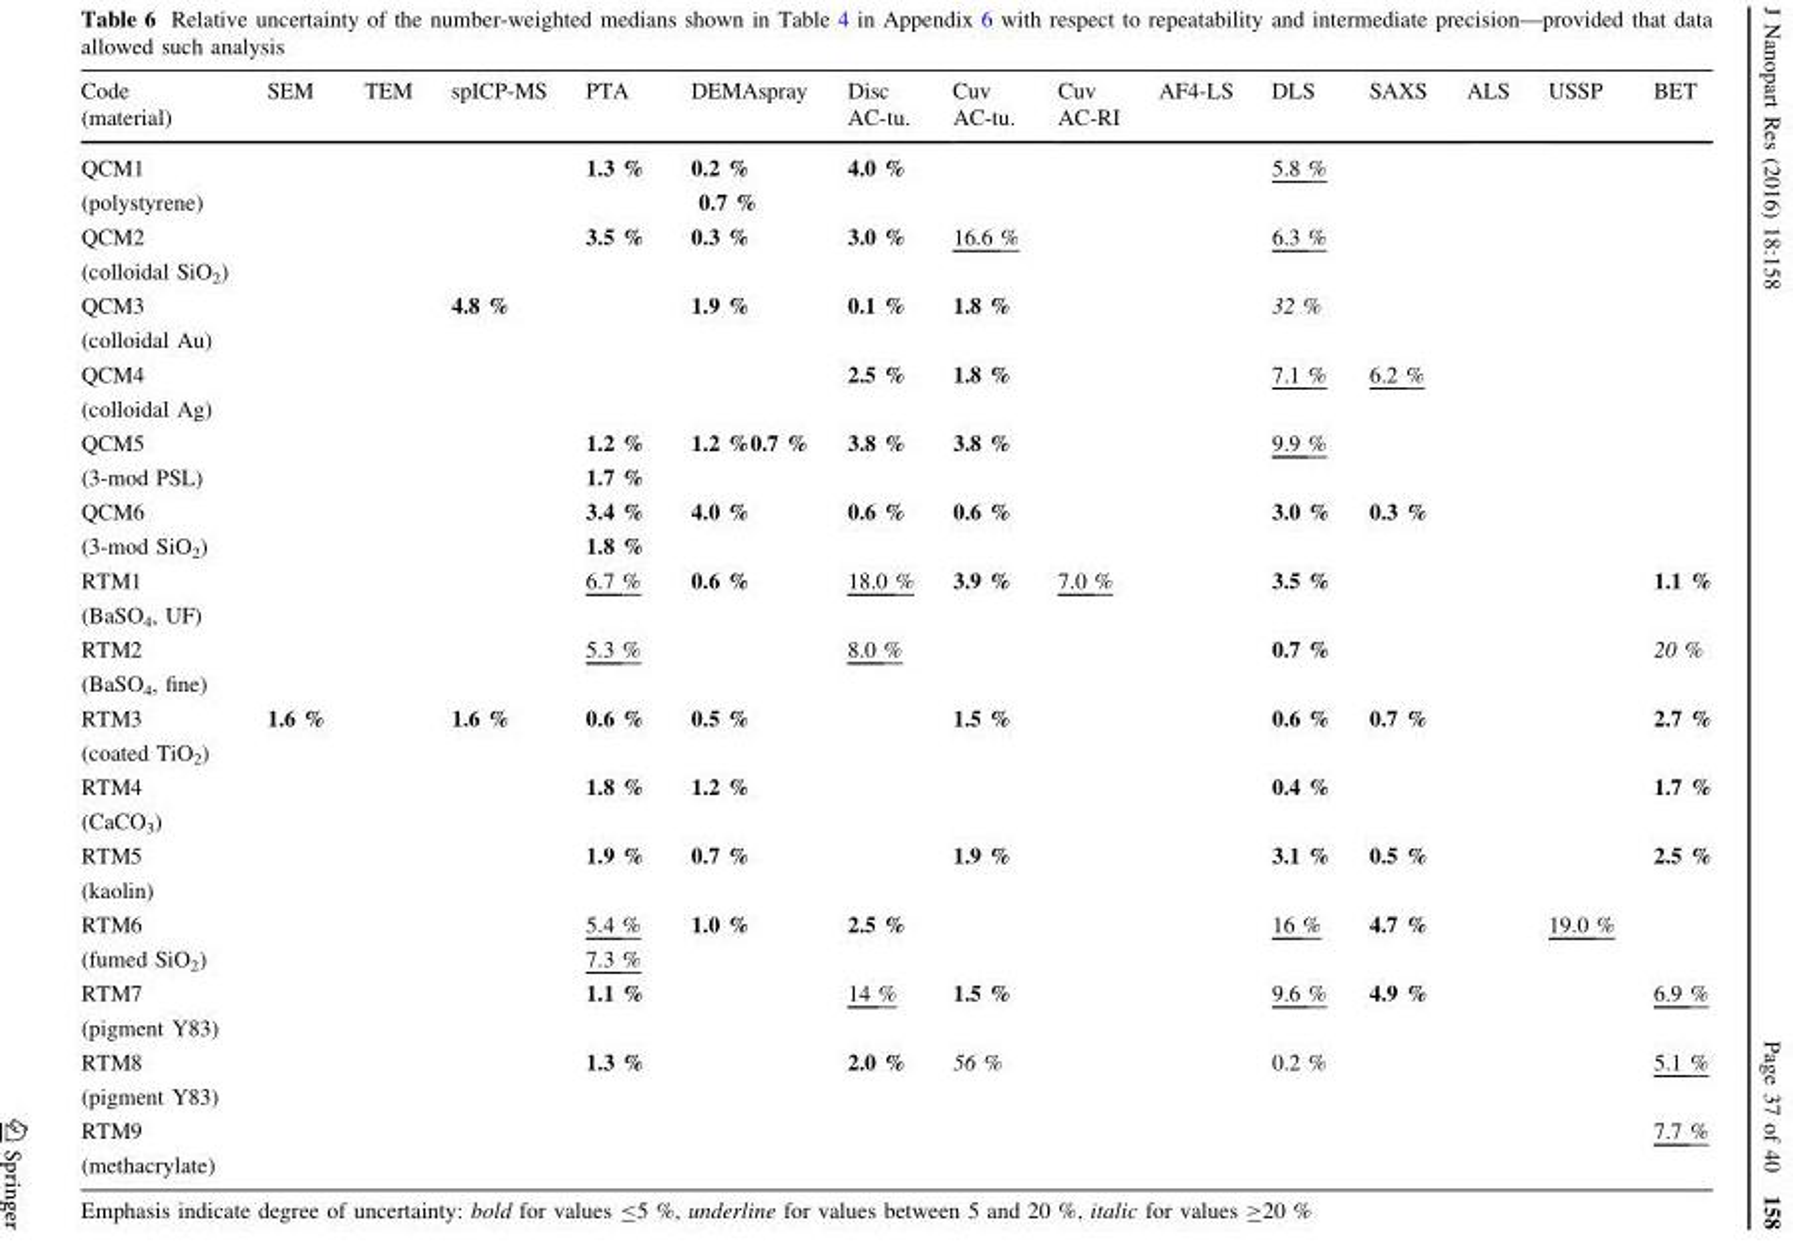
<table><thead><tr><td>Code (material)</td><td>SEM</td><td>TEM</td><td>spICP-MS</td><td>PTA</td><td>DEMAspray</td><td>Disc AC-tu.</td><td>Cuv AC-tu.</td><td>Cuv AC-RI</td><td>AF4-LS</td><td>DLS</td><td>SAXS</td><td>ALS</td><td>USSP</td><td>BET</td></tr></thead><tbody><tr><td>QCM1 (polystyrene)</td><td></td><td></td><td></td><td>1.3 %</td><td>0.2 % 0.7 %</td><td>4.0 %</td><td></td><td></td><td></td><td>5.8 %</td><td></td><td></td><td></td><td></td></tr><tr><td>QCM2 (colloidal SiO<sub>2</sub>)</td><td></td><td></td><td></td><td>3.5 %</td><td>0.3 %</td><td>3.0 %</td><td>16.6 %</td><td></td><td></td><td>6.3 %</td><td></td><td></td><td></td><td></td></tr><tr><td>QCM3 (colloidal Au)</td><td></td><td></td><td>4.8 %</td><td></td><td>1.9 %</td><td>0.1 %</td><td>1.8 %</td><td></td><td></td><td>32 %</td><td></td><td></td><td></td><td></td></tr><tr><td>QCM4 (colloidal Ag)</td><td></td><td></td><td></td><td></td><td></td><td>2.5 %</td><td>1.8 %</td><td></td><td></td><td>7.1 %</td><td>6.2 %</td><td></td><td></td><td></td></tr><tr><td>QCM5 (3-mod PSL)</td><td></td><td></td><td></td><td>1.2 % 1.7 %</td><td>1.2 %0.7 %</td><td>3.8 %</td><td>3.8 %</td><td></td><td></td><td>9.9 %</td><td></td><td></td><td></td><td></td></tr><tr><td>QCM6 (3-mod SiO<sub>2</sub>)</td><td></td><td></td><td></td><td>3.4 % 1.8 %</td><td>4.0 %</td><td>0.6 %</td><td>0.6 %</td><td></td><td></td><td>3.0 %</td><td>0.3 %</td><td></td><td></td><td></td></tr><tr><td>RTM1 (BaSO<sub>4</sub>, UF)</td><td></td><td></td><td></td><td>6.7 %</td><td>0.6 %</td><td>18.0 %</td><td>3.9 %</td><td>7.0 %</td><td></td><td>3.5 %</td><td></td><td></td><td></td><td>1.1 %</td></tr><tr><td>RTM2 (BaSO<sub>4</sub>, fine)</td><td></td><td></td><td></td><td>5.3 %</td><td></td><td>8.0 %</td><td></td><td></td><td></td><td>0.7 %</td><td></td><td></td><td></td><td>20 %</td></tr><tr><td>RTM3 (coated TiO<sub>2</sub>)</td><td>1.6 %</td><td></td><td>1.6 %</td><td>0.6 %</td><td>0.5 %</td><td></td><td>1.5 %</td><td></td><td></td><td>0.6 %</td><td>0.7 %</td><td></td><td></td><td>2.7 %</td></tr><tr><td>RTM4 (CaCO<sub>3</sub>)</td><td></td><td></td><td></td><td>1.8 %</td><td>1.2 %</td><td></td><td></td><td></td><td></td><td>0.4 %</td><td></td><td></td><td></td><td>1.7 %</td></tr><tr><td>RTM5 (kaolin)</td><td></td><td></td><td></td><td>1.9 %</td><td>0.7 %</td><td></td><td>1.9 %</td><td></td><td></td><td>3.1 %</td><td>0.5 %</td><td></td><td></td><td>2.5 %</td></tr><tr><td>RTM6 (fumed SiO<sub>2</sub>)</td><td></td><td></td><td></td><td>5.4 % 7.3 %</td><td>1.0 %</td><td>2.5 %</td><td></td><td></td><td></td><td>16 %</td><td>4.7 %</td><td></td><td>19.0 %</td><td></td></tr><tr><td>RTM7 (pigment Y83)</td><td></td><td></td><td></td><td>1.1 %</td><td></td><td>14 %</td><td>1.5 %</td><td></td><td></td><td>9.6 %</td><td>4.9 %</td><td></td><td></td><td>6.9 %</td></tr><tr><td>RTM8 (pigment Y83)</td><td></td><td></td><td></td><td>1.3 %</td><td></td><td>2.0 %</td><td>56 %</td><td></td><td></td><td>0.2 %</td><td></td><td></td><td></td><td>5.1 %</td></tr><tr><td>RTM9 (methacrylate)</td><td></td><td></td><td></td><td></td><td></td><td></td><td></td><td></td><td></td><td></td><td></td><td></td><td></td><td>7.7 %</td></tr></tbody></table>